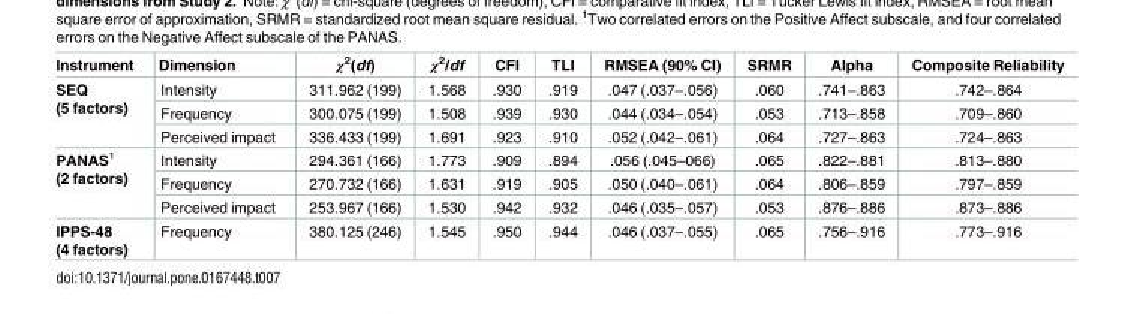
<table><thead><tr><td>Instrument</td><td>Dimension</td><td>χ<sup>2</sup>(df)</td><td>χ<sup>2</sup>/df</td><td>CFI</td><td>TLI</td><td>RMSEA (90% CI)</td><td>SRMR</td><td>Alpha</td><td>Composite Reliability</td></tr></thead><tbody><tr><td rowspan="3">SEQ (5 factors)</td><td>Intensity</td><td>311.962 (199)</td><td>1.568</td><td>.930</td><td>.919</td><td>.047 (.037–.056)</td><td>.060</td><td>.741–.863</td><td>.742–.864</td></tr><tr><td>Frequency</td><td>300.075 (199)</td><td>1.508</td><td>.939</td><td>.930</td><td>.044 (.034–.054)</td><td>.053</td><td>.713–.858</td><td>.709–.860</td></tr><tr><td>Perceived impact</td><td>336.433 (199)</td><td>1.691</td><td>.923</td><td>.910</td><td>.052 (.042–.061)</td><td>.064</td><td>.727–.863</td><td>.724–.863</td></tr><tr><td rowspan="3">PANAS<sup>1</sup> (2 factors)</td><td>Intensity</td><td>294.361 (166)</td><td>1.773</td><td>.909</td><td>.894</td><td>.056 (.045–066)</td><td>.065</td><td>.822–.881</td><td>.813–.880</td></tr><tr><td>Frequency</td><td>270.732 (166)</td><td>1.631</td><td>.919</td><td>.905</td><td>.050 (.040–.061)</td><td>.064</td><td>.806–.859</td><td>.797–.859</td></tr><tr><td>Perceived impact</td><td>253.967 (166)</td><td>1.530</td><td>.942</td><td>.932</td><td>.046 (.035–.057)</td><td>.053</td><td>.876–.886</td><td>.873–.886</td></tr><tr><td>IPPS-48 (4 factors)</td><td>Frequency</td><td>380.125 (246)</td><td>1.545</td><td>.950</td><td>.944</td><td>.046 (.037–.055)</td><td>.065</td><td>.756–.916</td><td>.773–.916</td></tr></tbody></table>